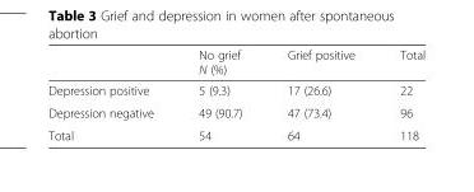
<table><thead><tr><td></td><td>No grief N (%)</td><td>Grief positive</td><td>Total</td></tr></thead><tbody><tr><td>Depression positive</td><td>5 (9.3)</td><td>17 (26.6)</td><td>22</td></tr><tr><td>Depression negative</td><td>49 (90.7)</td><td>47 (73.4)</td><td>96</td></tr><tr><td>Total</td><td>54</td><td>64</td><td>118</td></tr></tbody></table>